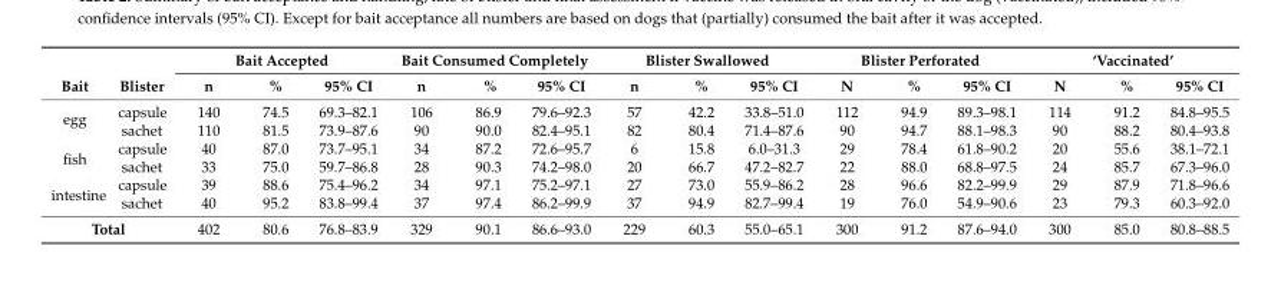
<table><thead><tr><td rowspan="2">Bait</td><td rowspan="2">Blister</td><td colspan="3">Bait Accepted</td><td colspan="3">Bait Consumed Completely</td><td colspan="3">Blister Swallowed</td><td colspan="3">Blister Perforated</td><td colspan="3">‘Vaccinated’</td></tr><tr><td>n</td><td>%</td><td>95% CI</td><td>n</td><td>%</td><td>95% CI</td><td>n</td><td>%</td><td>95% CI</td><td>N</td><td>%</td><td>95% CI</td><td>N</td><td>%</td><td>95% CI</td></tr></thead><tbody><tr><td rowspan="2">egg</td><td>capsule</td><td>140</td><td>74.5</td><td>69.3–82.1</td><td>106</td><td>86.9</td><td>79.6–92.3</td><td>57</td><td>42.2</td><td>33.8–51.0</td><td>112</td><td>94.9</td><td>89.3–98.1</td><td>114</td><td>91.2</td><td>84.8–95.5</td></tr><tr><td>sachet</td><td>110</td><td>81.5</td><td>73.9–87.6</td><td>90</td><td>90.0</td><td>82.4–95.1</td><td>82</td><td>80.4</td><td>71.4–87.6</td><td>90</td><td>94.7</td><td>88.1–98.3</td><td>90</td><td>88.2</td><td>80.4–93.8</td></tr><tr><td rowspan="2">fish</td><td>capsule</td><td>40</td><td>87.0</td><td>73.7–95.1</td><td>34</td><td>87.2</td><td>72.6–95.7</td><td>6</td><td>15.8</td><td>6.0–31.3</td><td>29</td><td>78.4</td><td>61.8–90.2</td><td>20</td><td>55.6</td><td>38.1–72.1</td></tr><tr><td>sachet</td><td>33</td><td>75.0</td><td>59.7–86.8</td><td>28</td><td>90.3</td><td>74.2–98.0</td><td>20</td><td>66.7</td><td>47.2–82.7</td><td>22</td><td>88.0</td><td>68.8–97.5</td><td>24</td><td>85.7</td><td>67.3–96.0</td></tr><tr><td rowspan="2">intestine</td><td>capsule</td><td>39</td><td>88.6</td><td>75.4–96.2</td><td>34</td><td>97.1</td><td>75.2–97.1</td><td>27</td><td>73.0</td><td>55.9–86.2</td><td>28</td><td>96.6</td><td>82.2–99.9</td><td>29</td><td>87.9</td><td>71.8–96.6</td></tr><tr><td>sachet</td><td>40</td><td>95.2</td><td>83.8–99.4</td><td>37</td><td>97.4</td><td>86.2–99.9</td><td>37</td><td>94.9</td><td>82.7–99.4</td><td>19</td><td>76.0</td><td>54.9–90.6</td><td>23</td><td>79.3</td><td>60.3–92.0</td></tr><tr><td colspan="2">Total</td><td>402</td><td>80.6</td><td>76.8–83.9</td><td>329</td><td>90.1</td><td>86.6–93.0</td><td>229</td><td>60.3</td><td>55.0–65.1</td><td>300</td><td>91.2</td><td>87.6–94.0</td><td>300</td><td>85.0</td><td>80.8–88.5</td></tr></tbody></table>